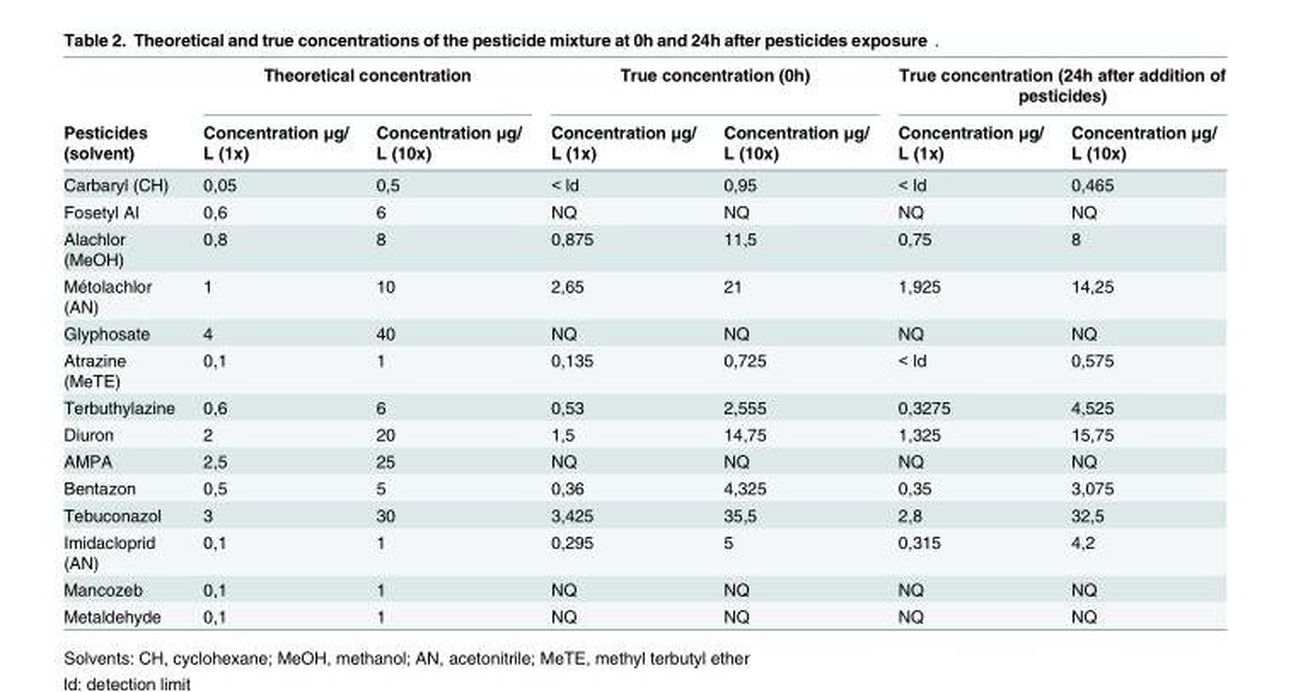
<table><thead><tr><td rowspan="2">Pesticides (solvent)</td><td colspan="2">Theoretical concentration</td><td colspan="2">True concentration (0h)</td><td colspan="2">True concentration (24h after addition of pesticides)</td></tr><tr><td>Concentration μg/ L (1x)</td><td>Concentration μg/ L (10x)</td><td>Concentration μg/ L (1x)</td><td>Concentration μg/ L (10x)</td><td>Concentration μg/ L (1x)</td><td>Concentration μg/ L (10x)</td></tr></thead><tbody><tr><td>Carbaryl (CH)</td><td>0,05</td><td>0,5</td><td>&lt; ld</td><td>0,95</td><td>&lt; ld</td><td>0,465</td></tr><tr><td>Fosetyl Al</td><td>0,6</td><td>6</td><td>NQ</td><td>NQ</td><td>NQ</td><td>NQ</td></tr><tr><td>Alachlor (MeOH)</td><td>0,8</td><td>8</td><td>0,875</td><td>11,5</td><td>0,75</td><td>8</td></tr><tr><td>Métolachlor (AN)</td><td>1</td><td>10</td><td>2,65</td><td>21</td><td>1,925</td><td>14,25</td></tr><tr><td>Glyphosate</td><td>4</td><td>40</td><td>NQ</td><td>NQ</td><td>NQ</td><td>NQ</td></tr><tr><td>Atrazine (MeTE)</td><td>0,1</td><td>1</td><td>0,135</td><td>0,725</td><td>&lt; ld</td><td>0,575</td></tr><tr><td>Terbuthylazine</td><td>0,6</td><td>6</td><td>0,53</td><td>2,555</td><td>0,3275</td><td>4,525</td></tr><tr><td>Diuron</td><td>2</td><td>20</td><td>1,5</td><td>14,75</td><td>1,325</td><td>15,75</td></tr><tr><td>AMPA</td><td>2,5</td><td>25</td><td>NQ</td><td>NQ</td><td>NQ</td><td>NQ</td></tr><tr><td>Bentazon</td><td>0,5</td><td>5</td><td>0,36</td><td>4,325</td><td>0,35</td><td>3,075</td></tr><tr><td>Tebuconazol</td><td>3</td><td>30</td><td>3,425</td><td>35,5</td><td>2,8</td><td>32,5</td></tr><tr><td>Imidacloprid (AN)</td><td>0,1</td><td>1</td><td>0,295</td><td>5</td><td>0,315</td><td>4,2</td></tr><tr><td>Mancozeb</td><td>0,1</td><td>1</td><td>NQ</td><td>NQ</td><td>NQ</td><td>NQ</td></tr><tr><td>Metaldehyde</td><td>0,1</td><td>1</td><td>NQ</td><td>NQ</td><td>NQ</td><td>NQ</td></tr></tbody></table>